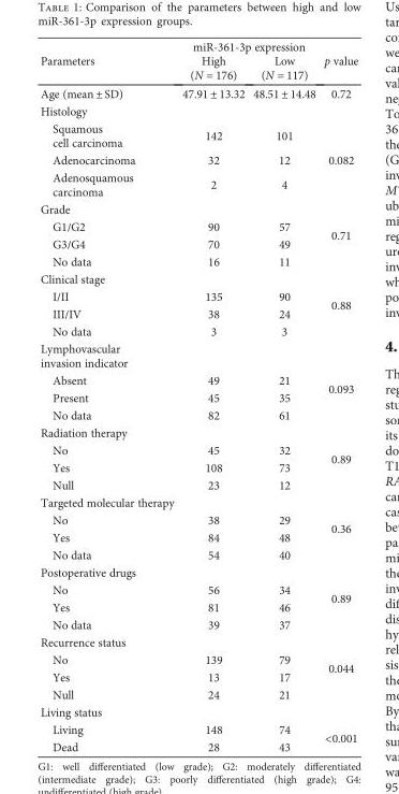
<table><thead><tr><td rowspan="2">Parameters</td><td colspan="2">miR-361-3p expression</td><td rowspan="2">p value</td></tr><tr><td>High (N = 176)</td><td>Low (N = 117)</td></tr></thead><tbody><tr><td>Age (mean ± SD)</td><td>47.91 ± 13.32</td><td>48.51 ± 14.48</td><td>0.72</td></tr><tr><td colspan="4">Histology</td></tr><tr><td>Squamous cell carcinoma</td><td>142</td><td>101</td><td rowspan="3">0.082</td></tr><tr><td>Adenocarcinoma</td><td>32</td><td>12</td></tr><tr><td>Adenosquamous carcinoma</td><td>2</td><td>4</td></tr><tr><td colspan="4">Grade</td></tr><tr><td>G1/G2</td><td>90</td><td>57</td><td rowspan="2">0.71</td></tr><tr><td>G3/G4</td><td>70</td><td>49</td></tr><tr><td>No data</td><td>16</td><td>11</td><td></td></tr><tr><td colspan="4">Clinical stage</td></tr><tr><td>I/II</td><td>135</td><td>90</td><td rowspan="2">0.88</td></tr><tr><td>III/IV</td><td>38</td><td>24</td></tr><tr><td>No data</td><td>3</td><td>3</td><td></td></tr><tr><td colspan="4">Lymphovascular invasion indicator</td></tr><tr><td>Absent</td><td>49</td><td>21</td><td rowspan="2">0.093</td></tr><tr><td>Present</td><td>45</td><td>35</td></tr><tr><td>No data</td><td>82</td><td>61</td><td></td></tr><tr><td colspan="4">Radiation therapy</td></tr><tr><td>No</td><td>45</td><td>32</td><td rowspan="2">0.89</td></tr><tr><td>Yes</td><td>108</td><td>73</td></tr><tr><td>Null</td><td>23</td><td>12</td><td></td></tr><tr><td colspan="4">Targeted molecular therapy</td></tr><tr><td>No</td><td>38</td><td>29</td><td rowspan="2">0.36</td></tr><tr><td>Yes</td><td>84</td><td>48</td></tr><tr><td>No data</td><td>54</td><td>40</td><td></td></tr><tr><td colspan="4">Postoperative drugs</td></tr><tr><td>No</td><td>56</td><td>34</td><td rowspan="2">0.89</td></tr><tr><td>Yes</td><td>81</td><td>46</td></tr><tr><td>No data</td><td>39</td><td>37</td><td></td></tr><tr><td colspan="4">Recurrence status</td></tr><tr><td>No</td><td>139</td><td>79</td><td rowspan="2">0.044</td></tr><tr><td>Yes</td><td>13</td><td>17</td></tr><tr><td>Null</td><td>24</td><td>21</td><td></td></tr><tr><td colspan="4">Living status</td></tr><tr><td>Living</td><td>148</td><td>74</td><td rowspan="2">&lt;0.001</td></tr><tr><td>Dead</td><td>28</td><td>43</td></tr></tbody></table>